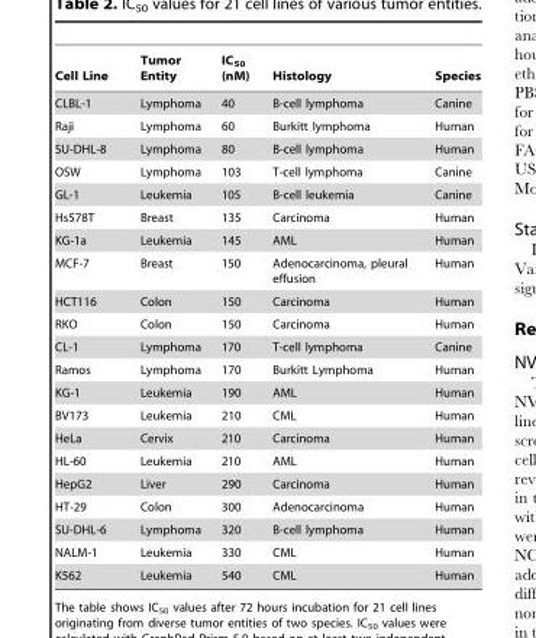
<table><thead><tr><td>Cell Line</td><td>Tumor Entity</td><td>IC<sub>50</sub> (nM)</td><td>Histology</td><td>Species</td></tr></thead><tbody><tr><td>CLBL-1</td><td>Lymphoma</td><td>40</td><td>B-cell lymphoma</td><td>Canine</td></tr><tr><td>Raji</td><td>Lymphoma</td><td>60</td><td>Burkitt lymphoma</td><td>Human</td></tr><tr><td>SU-DHL-8</td><td>Lymphoma</td><td>80</td><td>B-cell lymphoma</td><td>Human</td></tr><tr><td>OSW</td><td>Lymphoma</td><td>103</td><td>T-cell lymphoma</td><td>Canine</td></tr><tr><td>GL-1</td><td>Leukemia</td><td>105</td><td>B-cell leukemia</td><td>Canine</td></tr><tr><td>Hs578T</td><td>Breast</td><td>135</td><td>Carcinoma</td><td>Human</td></tr><tr><td>KG-1a</td><td>Leukemia</td><td>145</td><td>AML</td><td>Human</td></tr><tr><td>MCF-7</td><td>Breast</td><td>150</td><td>Adenocarcinoma, pleural effusion</td><td>Human</td></tr><tr><td>HCT116</td><td>Colon</td><td>150</td><td>Carcinoma</td><td>Human</td></tr><tr><td>RKO</td><td>Colon</td><td>150</td><td>Carcinoma</td><td>Human</td></tr><tr><td>CL-1</td><td>Lymphoma</td><td>170</td><td>T-cell lymphoma</td><td>Canine</td></tr><tr><td>Ramos</td><td>Lymphoma</td><td>170</td><td>Burkitt Lymphoma</td><td>Human</td></tr><tr><td>KG-1</td><td>Leukemia</td><td>190</td><td>AML</td><td>Human</td></tr><tr><td>BV173</td><td>Leukemia</td><td>210</td><td>CML</td><td>Human</td></tr><tr><td>HeLa</td><td>Cervix</td><td>210</td><td>Carcinoma</td><td>Human</td></tr><tr><td>HL-60</td><td>Leukemia</td><td>210</td><td>AML</td><td>Human</td></tr><tr><td>HepG2</td><td>Liver</td><td>290</td><td>Carcinoma</td><td>Human</td></tr><tr><td>HT-29</td><td>Colon</td><td>300</td><td>Adenocarcinoma</td><td>Human</td></tr><tr><td>SU-DHL-6</td><td>Lymphoma</td><td>320</td><td>B-cell lymphoma</td><td>Human</td></tr><tr><td>NALM-1</td><td>Leukemia</td><td>330</td><td>CML</td><td>Human</td></tr><tr><td>K562</td><td>Leukemia</td><td>540</td><td>CML</td><td>Human</td></tr></tbody></table>